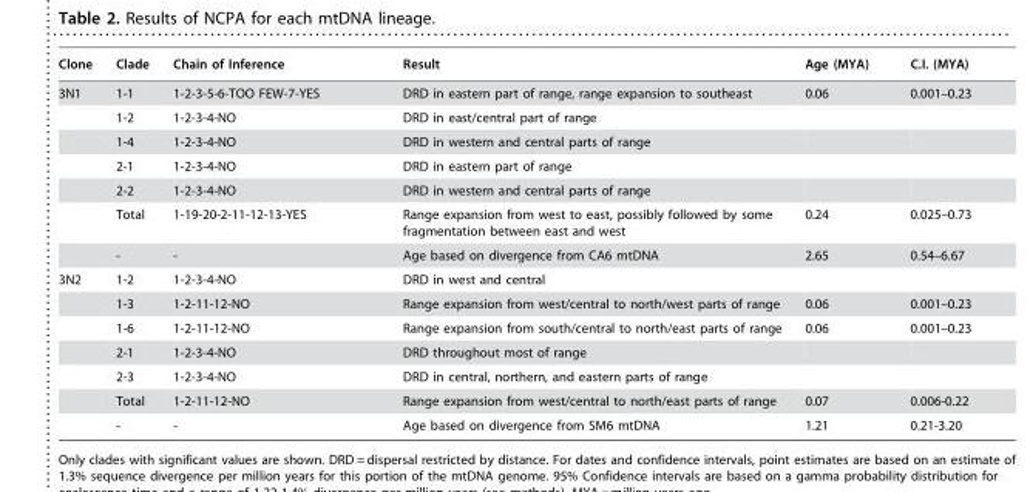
<table><thead><tr><td>Clone</td><td>Clade</td><td>Chain of Inference</td><td>Result</td><td>Age (MYA)</td><td>C.I. (MYA)</td></tr></thead><tbody><tr><td rowspan="7">3N1</td><td>1-1</td><td>1-2-3-5-6-TOO FEW-7-YES</td><td>DRD in eastern part of range, range expansion to southeast</td><td>0.06</td><td>0.001–0.23</td></tr><tr><td>1-2</td><td>1-2-3-4-NO</td><td>DRD in east/central part of range</td><td></td><td></td></tr><tr><td>1-4</td><td>1-2-3-4-NO</td><td>DRD in western and central parts of range</td><td></td><td></td></tr><tr><td>2-1</td><td>1-2-3-4-NO</td><td>DRD in eastern part of range</td><td></td><td></td></tr><tr><td>2-2</td><td>1-2-3-4-NO</td><td>DRD in western and central parts of range</td><td></td><td></td></tr><tr><td>Total</td><td>1-19-20-2-11-12-13-YES</td><td>Range expansion from west to east, possibly followed by some fragmentation between east and west</td><td>0.24</td><td>0.025–0.73</td></tr><tr><td>-</td><td>-</td><td>Age based on divergence from CA6 mtDNA</td><td>2.65</td><td>0.54–6.67</td></tr><tr><td rowspan="7">3N2</td><td>1-2</td><td>1-2-3-4-NO</td><td>DRD in west and central</td><td></td><td></td></tr><tr><td>1-3</td><td>1-2-11-12-NO</td><td>Range expansion from west/central to north/west parts of range</td><td>0.06</td><td>0.001–0.23</td></tr><tr><td>1-6</td><td>1-2-11-12-NO</td><td>Range expansion from south/central to north/east parts of range</td><td>0.06</td><td>0.001–0.23</td></tr><tr><td>2-1</td><td>1-2-3-4-NO</td><td>DRD throughout most of range</td><td></td><td></td></tr><tr><td>2-3</td><td>1-2-3-4-NO</td><td>DRD in central, northern, and eastern parts of range</td><td></td><td></td></tr><tr><td>Total</td><td>1-2-11-12-NO</td><td>Range expansion from west/central to north/east parts of range</td><td>0.07</td><td>0.006-0.22</td></tr><tr><td>-</td><td>-</td><td>Age based on divergence from SM6 mtDNA</td><td>1.21</td><td>0.21-3.20</td></tr></tbody></table>